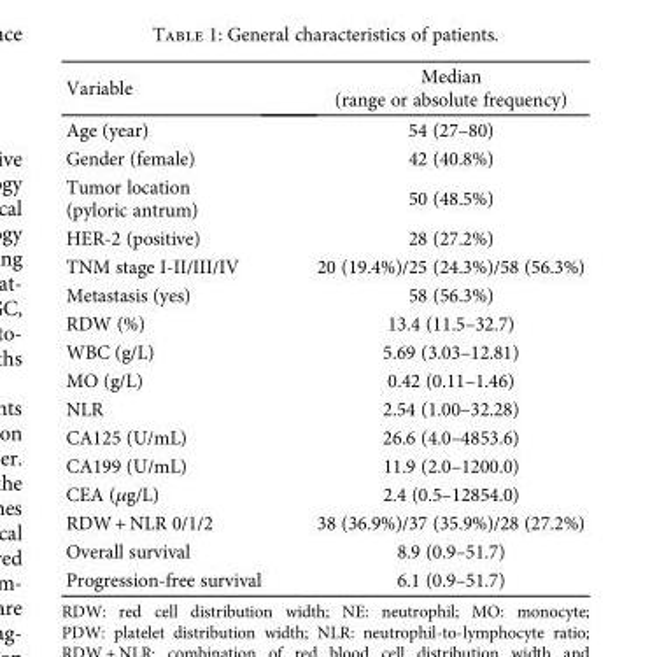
<table><thead><tr><td>Variable</td><td>Median (range or absolute frequency)</td></tr></thead><tbody><tr><td>Age (year)</td><td>54 (27–80)</td></tr><tr><td>Gender (female)</td><td>42 (40.8%)</td></tr><tr><td>Tumor location (pyloric antrum)</td><td>50 (48.5%)</td></tr><tr><td>HER-2 (positive)</td><td>28 (27.2%)</td></tr><tr><td>TNM stage I-II/III/IV</td><td>20 (19.4%)/25 (24.3%)/58 (56.3%)</td></tr><tr><td>Metastasis (yes)</td><td>58 (56.3%)</td></tr><tr><td>RDW (%)</td><td>13.4 (11.5–32.7)</td></tr><tr><td>WBC (g/L)</td><td>5.69 (3.03–12.81)</td></tr><tr><td>MO (g/L)</td><td>0.42 (0.11–1.46)</td></tr><tr><td>NLR</td><td>2.54 (1.00–32.28)</td></tr><tr><td>CA125 (U/mL)</td><td>26.6 (4.0–4853.6)</td></tr><tr><td>CA199 (U/mL)</td><td>11.9 (2.0–1200.0)</td></tr><tr><td>CEA (μg/L)</td><td>2.4 (0.5–12854.0)</td></tr><tr><td>RDW + NLR 0/1/2</td><td>38 (36.9%)/37 (35.9%)/28 (27.2%)</td></tr><tr><td>Overall survival</td><td>8.9 (0.9–51.7)</td></tr><tr><td>Progression-free survival</td><td>6.1 (0.9–51.7)</td></tr></tbody></table>